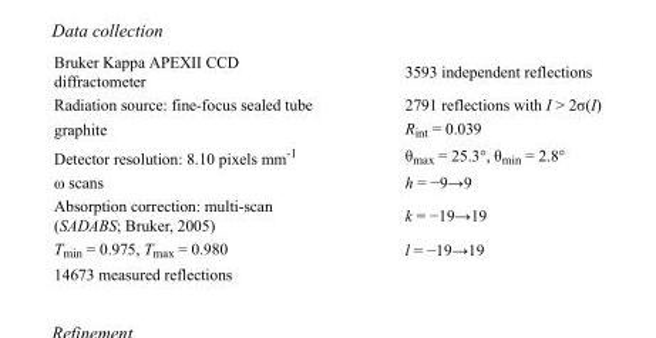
<table><tbody><tr><td>Bruker Kappa APEXII CCD diffractometer</td><td>3593 independent reflections</td></tr><tr><td>Radiation source: fine-focus sealed tube</td><td>2791 reflections with I &gt; 2σ(I)</td></tr><tr><td>graphite</td><td>R<sub>int</sub> = 0.039</td></tr><tr><td>Detector resolution: 8.10 pixels mm<sup>-1</sup></td><td>θ<sub>max</sub> = 25.3°, θ<sub>min</sub> = 2.8°</td></tr><tr><td>ω scans</td><td>h = −9→9</td></tr><tr><td>Absorption correction: multi-scan (SADABS; Bruker, 2005)</td><td>k = −19→19</td></tr><tr><td>T<sub>min</sub> = 0.975, T<sub>max</sub> = 0.980</td><td>l = −19→19</td></tr><tr><td>14673 measured reflections</td><td></td></tr></tbody></table>